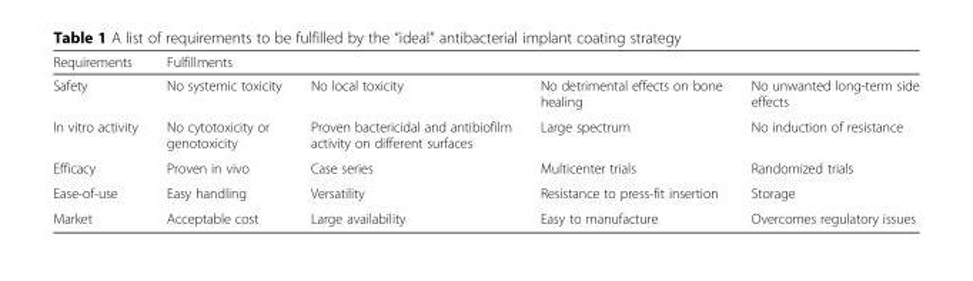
<table><thead><tr><td rowspan="2">Requirements Safety</td><td colspan="4">Fulfillments</td></tr><tr><td>No systemic toxicity</td><td>No local toxicity</td><td>No detrimental effects on bone healing</td><td>No unwanted long-term side effects</td></tr></thead><tbody><tr><td>In vitro activity</td><td>No cytotoxicity or genotoxicity</td><td>Proven bactericidal and antibiofilm activity on different surfaces</td><td>Large spectrum</td><td>No induction of resistance</td></tr><tr><td>Efficacy</td><td>Proven in vivo</td><td>Case series</td><td>Multicenter trials</td><td>Randomized trials</td></tr><tr><td>Ease-of-use</td><td>Easy handling</td><td>Versatility</td><td>Resistance to press-fit insertion</td><td>Storage</td></tr><tr><td>Market</td><td>Acceptable cost</td><td>Large availability</td><td>Easy to manufacture</td><td>Overcomes regulatory issues</td></tr></tbody></table>